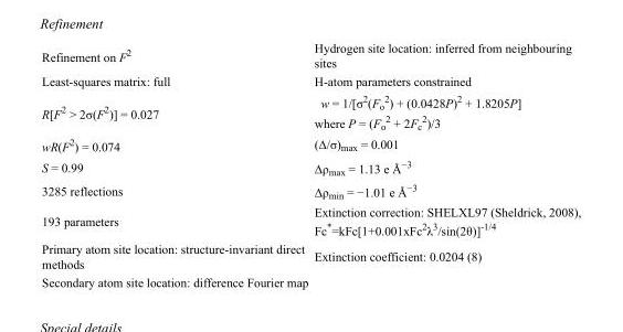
<table><tbody><tr><td>Refinement on F<sup>2</sup></td><td>Hydrogen site location: inferred from neighbouring sites</td></tr><tr><td>Least-squares matrix: full</td><td>H-atom parameters constrained</td></tr><tr><td>R[F<sup>2</sup> &gt; 2σ(F<sup>2</sup>)] = 0.027</td><td>w = 1/[σ<sup>2</sup>(F<sub>o</sub> <sup>2</sup>) + (0.0428P)<sup>2</sup> + 1.8205P] where P = (F<sub>o</sub> <sup>2</sup> + 2F<sub>c</sub> <sup>2</sup>)/3</td></tr><tr><td>wR(F<sup>2</sup>) = 0.074</td><td>(Δ/σ)<sub>max</sub> = 0.001</td></tr><tr><td>S = 0.99</td><td>Δρ<sub>max</sub> = 1.13 e Å<sup>−3</sup></td></tr><tr><td>3285 reflections</td><td>Δρ<sub>min</sub> = −1.01 e Å<sup>−3</sup></td></tr><tr><td>193 parameters</td><td>Extinction correction: SHELXL97 (Sheldrick, 2008), Fc*=kFc[1+0.001xFc<sup>2</sup>λ<sup>3</sup>/sin(2θ)]<sup>-1/4</sup></td></tr><tr><td>Primary atom site location: structure-invariant direct methods</td><td>Extinction coefficient: 0.0204 (8)</td></tr><tr><td>Secondary atom site location: difference Fourier map</td><td></td></tr></tbody></table>